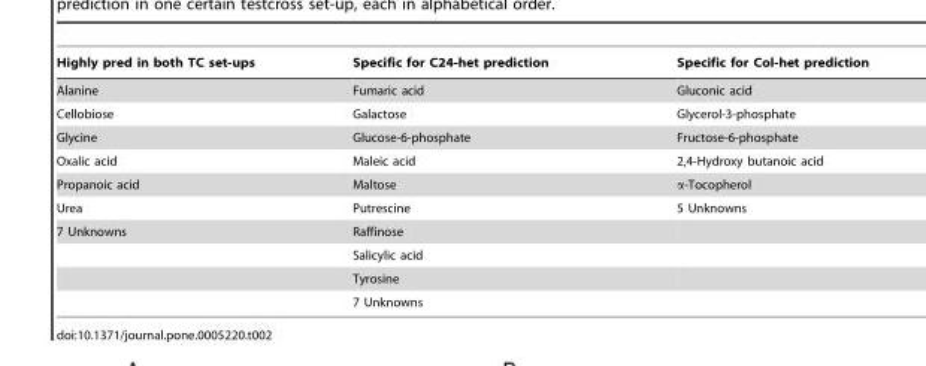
<table><thead><tr><td>Highly pred in both TC set-ups</td><td>Specific for C24-het prediction</td><td>Specific for Col-het prediction</td></tr></thead><tbody><tr><td>Alanine</td><td>Fumaric acid</td><td>Gluconic acid</td></tr><tr><td>Cellobiose</td><td>Galactose</td><td>Glycerol-3-phosphate</td></tr><tr><td>Glycine</td><td>Glucose-6-phosphate</td><td>Fructose-6-phosphate</td></tr><tr><td>Oxalic acid</td><td>Maleic acid</td><td>2,4-Hydroxy butanoic acid</td></tr><tr><td>Propanoic acid</td><td>Maltose</td><td>α-Tocopherol</td></tr><tr><td>Urea</td><td>Putrescine</td><td>5 Unknowns</td></tr><tr><td rowspan="4">7 Unknowns</td><td>Raffinose</td><td></td></tr><tr><td>Salicylic acid</td><td></td></tr><tr><td>Tyrosine</td><td></td></tr><tr><td>7 Unknowns</td><td></td></tr></tbody></table>